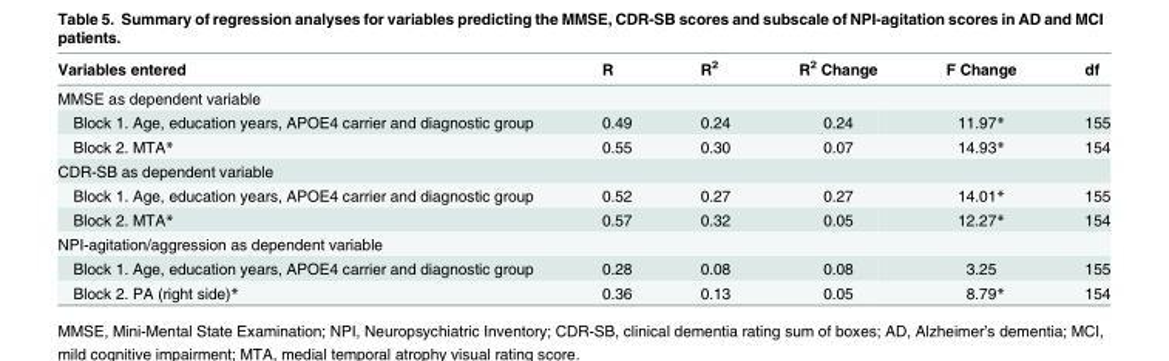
<table><thead><tr><td>Variables entered</td><td>R</td><td>R<sup>2</sup></td><td>R<sup>2</sup> Change</td><td>F Change</td><td>df</td></tr></thead><tbody><tr><td colspan="6">MMSE as dependent variable</td></tr><tr><td>Block 1. Age, education years, APOE4 carrier and diagnostic group</td><td>0.49</td><td>0.24</td><td>0.24</td><td>11.97*</td><td>155</td></tr><tr><td>Block 2. MTA*</td><td>0.55</td><td>0.30</td><td>0.07</td><td>14.93*</td><td>154</td></tr><tr><td colspan="6">CDR-SB as dependent variable</td></tr><tr><td>Block 1. Age, education years, APOE4 carrier and diagnostic group</td><td>0.52</td><td>0.27</td><td>0.27</td><td>14.01*</td><td>155</td></tr><tr><td>Block 2. MTA*</td><td>0.57</td><td>0.32</td><td>0.05</td><td>12.27*</td><td>154</td></tr><tr><td colspan="6">NPI-agitation/aggression as dependent variable</td></tr><tr><td>Block 1. Age, education years, APOE4 carrier and diagnostic group</td><td>0.28</td><td>0.08</td><td>0.08</td><td>3.25</td><td>155</td></tr><tr><td>Block 2. PA (right side)*</td><td>0.36</td><td>0.13</td><td>0.05</td><td>8.79*</td><td>154</td></tr></tbody></table>